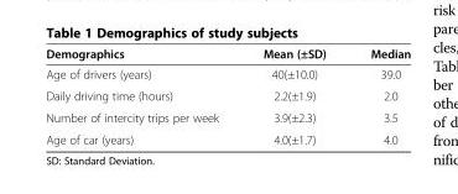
<table><thead><tr><td>Demographics</td><td>Mean (±SD)</td><td>Median</td></tr></thead><tbody><tr><td>Age of drivers (years)</td><td>40(±10.0)</td><td>39.0</td></tr><tr><td>Daily driving time (hours)</td><td>2.2(±1.9)</td><td>2.0</td></tr><tr><td>Number of intercity trips per week</td><td>3.9(±2.3)</td><td>3.5</td></tr><tr><td>Age of car (years)</td><td>4.0(±1.7)</td><td>4.0</td></tr></tbody></table>